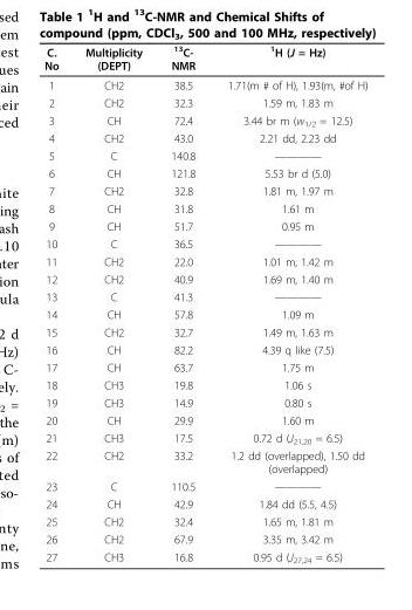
<table><thead><tr><td>C. No</td><td>Multiplicity (DEPT)</td><td><sup>13</sup>C- NMR</td><td><sup>1</sup>H (J = Hz)</td></tr></thead><tbody><tr><td>1</td><td>CH2</td><td>38.5</td><td>1.71(m # of H), 1.93(m, #of H)</td></tr><tr><td>2</td><td>CH2</td><td>32.3</td><td>1.59 m, 1.83 m</td></tr><tr><td>3</td><td>CH</td><td>72.4</td><td>3.44 br m (w<sub>1/2</sub> = 12.5)</td></tr><tr><td>4</td><td>CH2</td><td>43.0</td><td>2.21 dd, 2.23 dd</td></tr><tr><td>5</td><td>C</td><td>140.8</td><td>————</td></tr><tr><td>6</td><td>CH</td><td>121.8</td><td>5.53 br d (5.0)</td></tr><tr><td>7</td><td>CH2</td><td>32.8</td><td>1.81 m, 1.97 m</td></tr><tr><td>8</td><td>CH</td><td>31.8</td><td>1.61 m</td></tr><tr><td>9</td><td>CH</td><td>51.7</td><td>0.95 m</td></tr><tr><td>10</td><td>C</td><td>36.5</td><td>————</td></tr><tr><td>11</td><td>CH2</td><td>22.0</td><td>1.01 m, 1.42 m</td></tr><tr><td>12</td><td>CH2</td><td>40.9</td><td>1.69 m, 1.40 m</td></tr><tr><td>13</td><td>C</td><td>41.3</td><td>————</td></tr><tr><td>14</td><td>CH</td><td>57.8</td><td>1.09 m</td></tr><tr><td>15</td><td>CH2</td><td>32.7</td><td>1.49 m, 1.63 m</td></tr><tr><td>16</td><td>CH</td><td>82.2</td><td>4.39 q like (7.5)</td></tr><tr><td>17</td><td>CH</td><td>63.7</td><td>1.75 m</td></tr><tr><td>18</td><td>CH3</td><td>19.8</td><td>1.06 s</td></tr><tr><td>19</td><td>CH3</td><td>14.9</td><td>0.80 s</td></tr><tr><td>20</td><td>CH</td><td>29.9</td><td>1.60 m</td></tr><tr><td>21</td><td>CH3</td><td>17.5</td><td>0.72 d (J<sub>21,20</sub> = 6.5)</td></tr><tr><td>22</td><td>CH2</td><td>33.2</td><td>1.2 dd (overlapped), 1.50 dd (overlapped)</td></tr><tr><td>23</td><td>C</td><td>110.5</td><td>————</td></tr><tr><td>24</td><td>CH</td><td>42.9</td><td>1.84 dd (5.5, 4.5)</td></tr><tr><td>25</td><td>CH2</td><td>32.4</td><td>1.65 m, 1.81 m</td></tr><tr><td>26</td><td>CH2</td><td>67.9</td><td>3.35 m, 3.42 m</td></tr><tr><td>27</td><td>CH3</td><td>16.8</td><td>0.95 d (J<sub>27,24</sub> = 6.5)</td></tr></tbody></table>